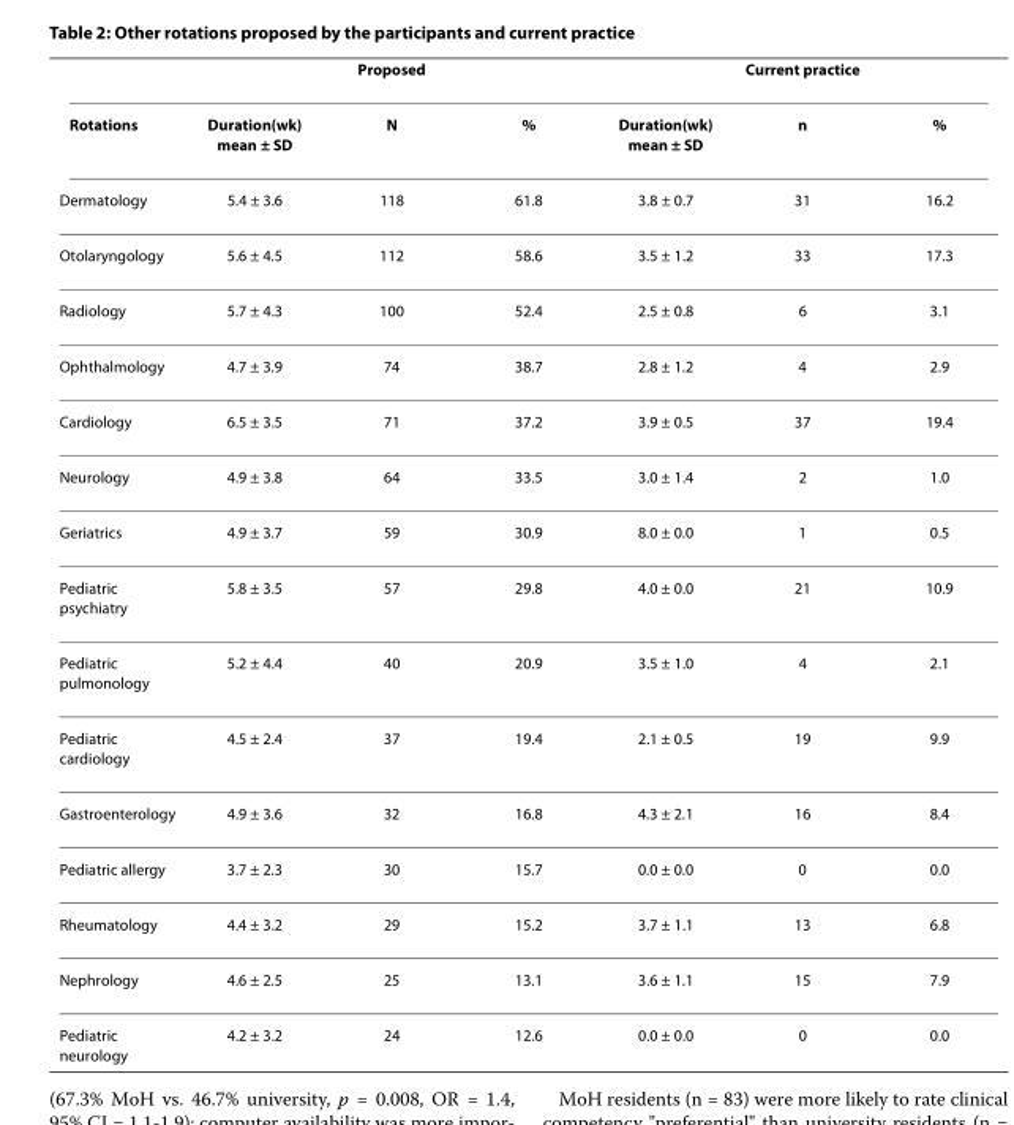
<table><thead><tr><td rowspan="2">Rotations</td><td colspan="3">Proposed</td><td colspan="3">Current practice</td></tr><tr><td>Duration(wk) mean ± SD</td><td>N</td><td>%</td><td>Duration(wk) mean ± SD</td><td>n</td><td>%</td></tr></thead><tbody><tr><td>Dermatology</td><td>5.4 ± 3.6</td><td>118</td><td>61.8</td><td>3.8 ± 0.7</td><td>31</td><td>16.2</td></tr><tr><td>Otolaryngology</td><td>5.6 ± 4.5</td><td>112</td><td>58.6</td><td>3.5 ± 1.2</td><td>33</td><td>17.3</td></tr><tr><td>Radiology</td><td>5.7 ± 4.3</td><td>100</td><td>52.4</td><td>2.5 ± 0.8</td><td>6</td><td>3.1</td></tr><tr><td>Ophthalmology</td><td>4.7 ± 3.9</td><td>74</td><td>38.7</td><td>2.8 ± 1.2</td><td>4</td><td>2.9</td></tr><tr><td>Cardiology</td><td>6.5 ± 3.5</td><td>71</td><td>37.2</td><td>3.9 ± 0.5</td><td>37</td><td>19.4</td></tr><tr><td>Neurology</td><td>4.9 ± 3.8</td><td>64</td><td>33.5</td><td>3.0 ± 1.4</td><td>2</td><td>1.0</td></tr><tr><td>Geriatrics</td><td>4.9 ± 3.7</td><td>59</td><td>30.9</td><td>8.0 ± 0.0</td><td>1</td><td>0.5</td></tr><tr><td>Pediatric psychiatry</td><td>5.8 ± 3.5</td><td>57</td><td>29.8</td><td>4.0 ± 0.0</td><td>21</td><td>10.9</td></tr><tr><td>Pediatric pulmonology</td><td>5.2 ± 4.4</td><td>40</td><td>20.9</td><td>3.5 ± 1.0</td><td>4</td><td>2.1</td></tr><tr><td>Pediatric cardiology</td><td>4.5 ± 2.4</td><td>37</td><td>19.4</td><td>2.1 ± 0.5</td><td>19</td><td>9.9</td></tr><tr><td>Gastroenterology</td><td>4.9 ± 3.6</td><td>32</td><td>16.8</td><td>4.3 ± 2.1</td><td>16</td><td>8.4</td></tr><tr><td>Pediatric allergy</td><td>3.7 ± 2.3</td><td>30</td><td>15.7</td><td>0.0 ± 0.0</td><td>0</td><td>0.0</td></tr><tr><td>Rheumatology</td><td>4.4 ± 3.2</td><td>29</td><td>15.2</td><td>3.7 ± 1.1</td><td>13</td><td>6.8</td></tr><tr><td>Nephrology</td><td>4.6 ± 2.5</td><td>25</td><td>13.1</td><td>3.6 ± 1.1</td><td>15</td><td>7.9</td></tr><tr><td>Pediatric neurology</td><td>4.2 ± 3.2</td><td>24</td><td>12.6</td><td>0.0 ± 0.0</td><td>0</td><td>0.0</td></tr></tbody></table>